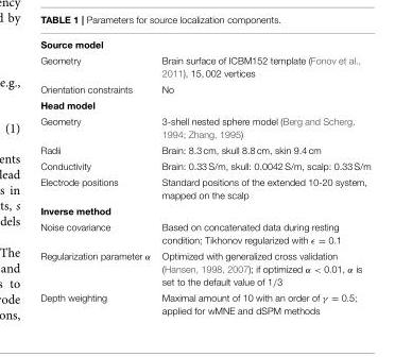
<table><tbody><tr><td colspan="2">Source model</td></tr><tr><td>Geometry</td><td>Brain surface of ICBM152 template (Fonov et al., 2011), 15, 002 vertices</td></tr><tr><td>Orientation constraints</td><td>No</td></tr><tr><td colspan="2">Head model</td></tr><tr><td>Geometry</td><td>3-shell nested sphere model (Berg and Scherg, 1994; Zhang, 1995)</td></tr><tr><td>Radii</td><td>Brain: 8.3 cm, skull 8.8 cm, skin 9.4 cm</td></tr><tr><td>Conductivity</td><td>Brain: 0.33 S/m, skull: 0.0042 S/m, scalp: 0.33 S/m</td></tr><tr><td>Electrode positions</td><td>Standard positions of the extended 10-20 system, mapped on the scalp</td></tr><tr><td colspan="2">Inverse method</td></tr><tr><td>Noise covariance</td><td>Based on concatenated data during resting condition; Tikhonov regularized with ǫ = 0.1</td></tr><tr><td>Regularization parameter α</td><td>Optimized with generalized cross validation (Hansen, 1998, 2007); if optimized α &lt; 0.01, α is set to the default value of 1/3</td></tr><tr><td>Depth weighting</td><td>Maximal amount of 10 with an order of γ = 0.5; applied for wMNE and dSPM methods</td></tr></tbody></table>